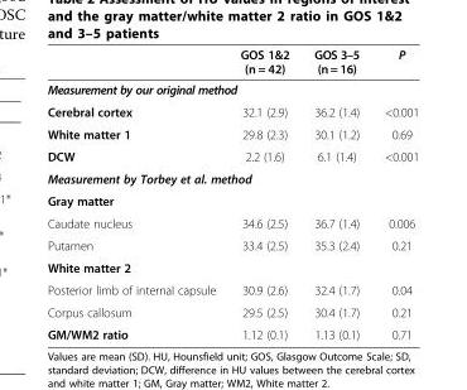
<table><thead><tr><td></td><td>GOS 1&amp;2 (n = 42)</td><td>GOS 3–5 (n = 16)</td><td>P</td></tr></thead><tbody><tr><td colspan="4">Measurement by our original method</td></tr><tr><td>Cerebral cortex</td><td>32.1 (2.9)</td><td>36.2 (1.4)</td><td>&lt;0.001</td></tr><tr><td>White matter 1</td><td>29.8 (2.3)</td><td>30.1 (1.2)</td><td>0.69</td></tr><tr><td>DCW</td><td>2.2 (1.6)</td><td>6.1 (1.4)</td><td>&lt;0.001</td></tr><tr><td colspan="4">Measurement by Torbey et al. method</td></tr><tr><td colspan="4">Gray matter</td></tr><tr><td>Caudate nucleus</td><td>34.6 (2.5)</td><td>36.7 (1.4)</td><td>0.006</td></tr><tr><td>Putamen</td><td>33.4 (2.5)</td><td>35.3 (2.4)</td><td>0.21</td></tr><tr><td colspan="4">White matter 2</td></tr><tr><td>Posterior limb of internal capsule</td><td>30.9 (2.6)</td><td>32.4 (1.7)</td><td>0.04</td></tr><tr><td>Corpus callosum</td><td>29.5 (2.5)</td><td>30.4 (1.7)</td><td>0.21</td></tr><tr><td>GM/WM2 ratio</td><td>1.12 (0.1)</td><td>1.13 (0.1)</td><td>0.71</td></tr></tbody></table>